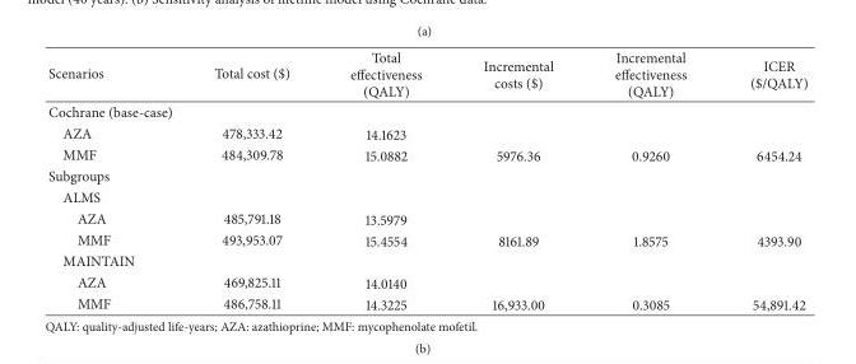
<table><thead><tr><td>Scenarios</td><td>Total cost ($)</td><td>Total effectiveness (QALY)</td><td>Incremental costs ($)</td><td>Incremental effectiveness (QALY)</td><td>ICER ($/QALY)</td></tr></thead><tbody><tr><td colspan="6">Cochrane (base-case)</td></tr><tr><td>AZA</td><td>478,333.42</td><td>14.1623</td><td></td><td></td><td></td></tr><tr><td>MMF</td><td>484,309.78</td><td>15.0882</td><td>5976.36</td><td>0.9260</td><td>6454.24</td></tr><tr><td colspan="6">Subgroups</td></tr><tr><td colspan="6">ALMS</td></tr><tr><td>AZA</td><td>485,791.18</td><td>13.5979</td><td></td><td></td><td></td></tr><tr><td>MMF</td><td>493,953.07</td><td>15.4554</td><td>8161.89</td><td>1.8575</td><td>4393.90</td></tr><tr><td colspan="6">MAINTAIN</td></tr><tr><td>AZA</td><td>469,825.11</td><td>14.0140</td><td></td><td></td><td></td></tr><tr><td>MMF</td><td>486,758.11</td><td>14.3225</td><td>16,933.00</td><td>0.3085</td><td>54,891.42</td></tr></tbody></table>